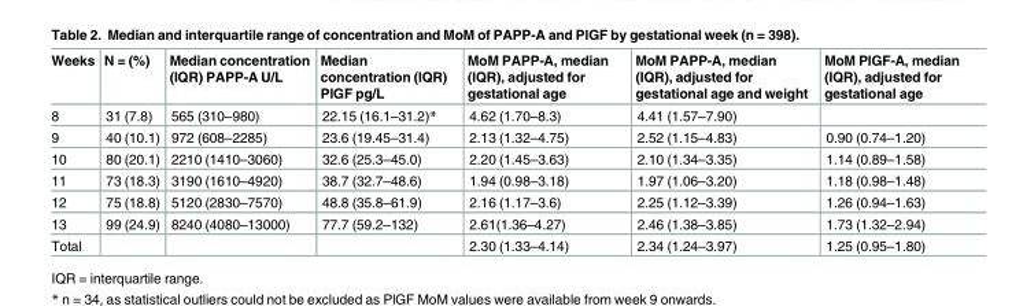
<table><thead><tr><td>Weeks</td><td>N = (%)</td><td>Median concentration (IQR) PAPP-A U/L</td><td>Median concentration (IQR) PlGF pg/L</td><td>MoM PAPP-A, median (IQR), adjusted for gestational age</td><td>MoM PAPP-A, median (IQR), adjusted for gestational age and weight</td><td>MoM PlGF-A, median (IQR), adjusted for gestational age</td></tr></thead><tbody><tr><td>8</td><td>31 (7.8)</td><td>565 (310–980)</td><td>22.15 (16.1–31.2)*</td><td>4.62 (1.70–8.3)</td><td>4.41 (1.57–7.90)</td><td></td></tr><tr><td>9</td><td>40 (10.1)</td><td>972 (608–2285)</td><td>23.6 (19.45–31.4)</td><td>2.13 (1.32–4.75)</td><td>2.52 (1.15–4.83)</td><td>0.90 (0.74–1.20)</td></tr><tr><td>10</td><td>80 (20.1)</td><td>2210 (1410–3060)</td><td>32.6 (25.3–45.0)</td><td>2.20 (1.45–3.63)</td><td>2.10 (1.34–3.35)</td><td>1.14 (0.89–1.58)</td></tr><tr><td>11</td><td>73 (18.3)</td><td>3190 (1610–4920)</td><td>38.7 (32.7–48.6)</td><td>1.94 (0.98–3.18)</td><td>1.97 (1.06–3.20)</td><td>1.18 (0.98–1.48)</td></tr><tr><td>12</td><td>75 (18.8)</td><td>5120 (2830–7570)</td><td>48.8 (35.8–61.9)</td><td>2.16 (1.17–3.6)</td><td>2.25 (1.12–3.39)</td><td>1.26 (0.94–1.63)</td></tr><tr><td>13</td><td>99 (24.9)</td><td>8240 (4080–13000)</td><td>77.7 (59.2–132)</td><td>2.61(1.36–4.27)</td><td>2.46 (1.38–3.85)</td><td>1.73 (1.32–2.94)</td></tr><tr><td>Total</td><td></td><td></td><td></td><td>2.30 (1.33–4.14)</td><td>2.34 (1.24–3.97)</td><td>1.25 (0.95–1.80)</td></tr></tbody></table>